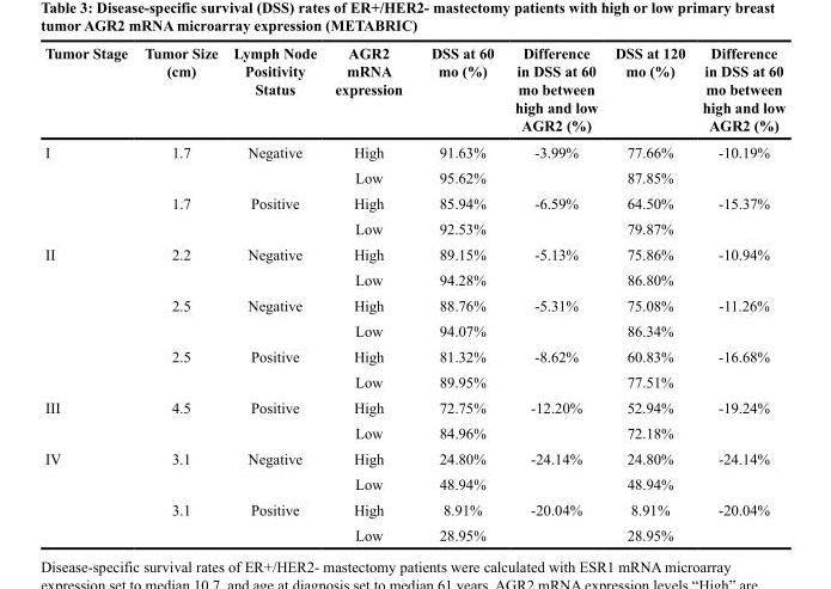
<table><thead><tr><td>Tumor Stage</td><td>Tumor Size (cm)</td><td>Lymph Node Positivity Status</td><td>AGR2 mRNA expression</td><td>DSS at 60 mo (%)</td><td>Difference in DSS at 60 mo between high and low AGR2 (%)</td><td>DSS at 120 mo (%)</td><td>Difference in DSS at 60 mo between high and low AGR2 (%)</td></tr></thead><tbody><tr><td rowspan="4">I</td><td>1.7</td><td>Negative</td><td>High</td><td>91.63%</td><td>-3.99%</td><td>77.66%</td><td>-10.19%</td></tr><tr><td></td><td></td><td>Low</td><td>95.62%</td><td></td><td>87.85%</td><td></td></tr><tr><td>1.7</td><td>Positive</td><td>High</td><td>85.94%</td><td>-6.59%</td><td>64.50%</td><td>-15.37%</td></tr><tr><td></td><td></td><td>Low</td><td>92.53%</td><td></td><td>79.87%</td><td></td></tr><tr><td rowspan="6">II</td><td>2.2</td><td>Negative</td><td>High</td><td>89.15%</td><td>-5.13%</td><td>75.86%</td><td>-10.94%</td></tr><tr><td></td><td></td><td>Low</td><td>94.28%</td><td></td><td>86.80%</td><td></td></tr><tr><td>2.5</td><td>Negative</td><td>High</td><td>88.76%</td><td>-5.31%</td><td>75.08%</td><td>-11.26%</td></tr><tr><td></td><td></td><td>Low</td><td>94.07%</td><td></td><td>86.34%</td><td></td></tr><tr><td>2.5</td><td>Positive</td><td>High</td><td>81.32%</td><td>-8.62%</td><td>60.83%</td><td>-16.68%</td></tr><tr><td></td><td></td><td>Low</td><td>89.95%</td><td></td><td>77.51%</td><td></td></tr><tr><td rowspan="2">III</td><td>4.5</td><td>Positive</td><td>High</td><td>72.75%</td><td>-12.20%</td><td>52.94%</td><td>-19.24%</td></tr><tr><td></td><td></td><td>Low</td><td>84.96%</td><td></td><td>72.18%</td><td></td></tr><tr><td rowspan="4">IV</td><td>3.1</td><td>Negative</td><td>High</td><td>24.80%</td><td>-24.14%</td><td>24.80%</td><td>-24.14%</td></tr><tr><td></td><td></td><td>Low</td><td>48.94%</td><td></td><td>48.94%</td><td></td></tr><tr><td>3.1</td><td>Positive</td><td>High</td><td>8.91%</td><td>-20.04%</td><td>8.91%</td><td>-20.04%</td></tr><tr><td></td><td></td><td>Low</td><td>28.95%</td><td></td><td>28.95%</td><td></td></tr></tbody></table>